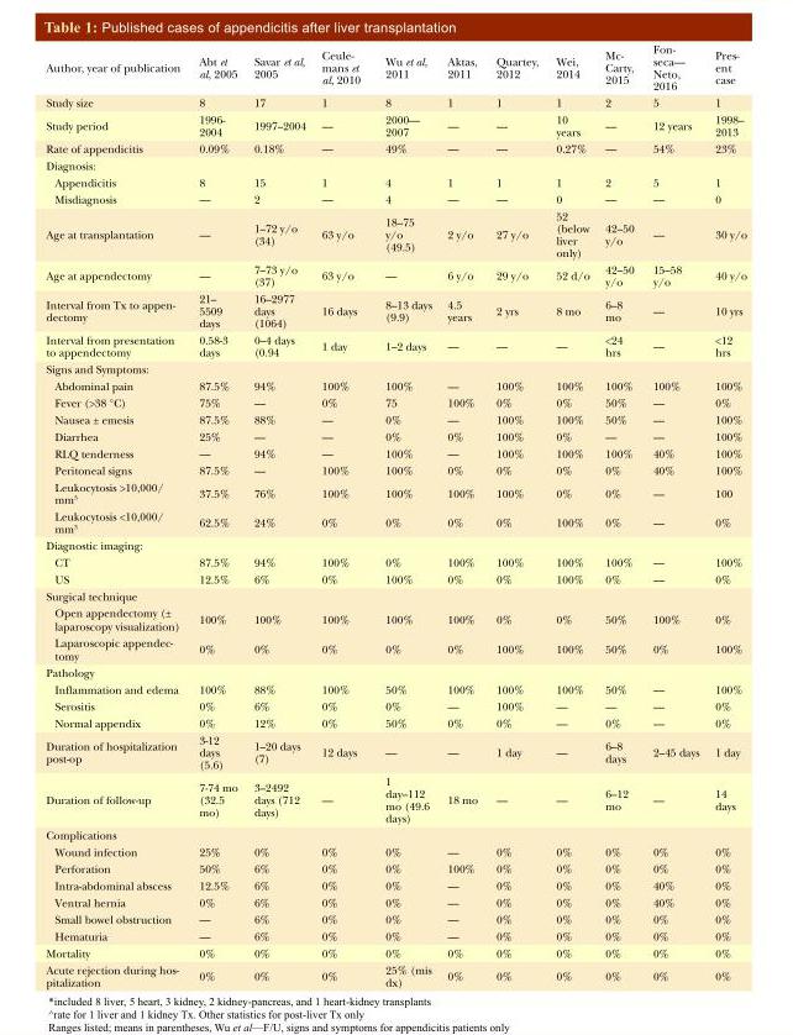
<table><thead><tr><td>Author, year of publication</td><td>Abt et al, 2005</td><td>Savar et al, 2005</td><td>Ceule- mans et al, 2010</td><td>Wu et al, 2011</td><td>Aktas, 2011</td><td>Quartey, 2012</td><td>Wei, 2014</td><td>Mc- Carty, 2015</td><td>Fon- seca— Neto, 2016</td><td>Pres- ent case</td></tr></thead><tbody><tr><td>Study size</td><td>8</td><td>17</td><td>1</td><td>8</td><td>1</td><td>1</td><td>1</td><td>2</td><td>5</td><td>1</td></tr><tr><td>Study period</td><td>1996- 2004</td><td>1997–2004</td><td>—</td><td>2000— 2007</td><td>—</td><td>—</td><td>10 years</td><td>—</td><td>12 years</td><td>1998– 2013</td></tr><tr><td>Rate of appendicitis</td><td>0.09%</td><td>0.18%</td><td>—</td><td>49%</td><td>—</td><td>—</td><td>0.27%</td><td>—</td><td>54%</td><td>23%</td></tr><tr><td colspan="11">Diagnosis:</td></tr><tr><td>Appendicitis</td><td>8</td><td>15</td><td>1</td><td>4</td><td>1</td><td>1</td><td>1</td><td>2</td><td>5</td><td>1</td></tr><tr><td>Misdiagnosis</td><td>—</td><td>2</td><td>—</td><td>4</td><td>—</td><td>—</td><td>0</td><td>—</td><td>—</td><td>0</td></tr><tr><td>Age at transplantation</td><td>—</td><td>1–72 y/o (34)</td><td>63 y/o</td><td>18–75 y/o (49.5)</td><td>2 y/o</td><td>27 y/o</td><td>52 (below liver only)</td><td>42–50 y/o</td><td>—</td><td>30 y/o</td></tr><tr><td>Age at appendectomy</td><td>—</td><td>7–73 y/o (37)</td><td>63 y/o</td><td>—</td><td>6 y/o</td><td>29 y/o</td><td>52 d/o</td><td>42–50 y/o</td><td>15–58 y/o</td><td>40 y/o</td></tr><tr><td>Interval from Tx to appen- dectomy</td><td>21– 5509 days</td><td>16–2977 days (1064)</td><td>16 days</td><td>8–13 days (9.9)</td><td>4.5 years</td><td>2 yrs</td><td>8 mo</td><td>6–8 mo</td><td>—</td><td>10 yrs</td></tr><tr><td>Interval from presentation to appendectomy</td><td>0.58-3 days</td><td>0–4 days (0.94</td><td>1 day</td><td>1–2 days</td><td>—</td><td>—</td><td>—</td><td>&lt;24 hrs</td><td>—</td><td>&lt;12 hrs</td></tr><tr><td colspan="11">Signs and Symptoms:</td></tr><tr><td>Abdominal pain</td><td>87.5%</td><td>94%</td><td>100%</td><td>100%</td><td>—</td><td>100%</td><td>100%</td><td>100%</td><td>100%</td><td>100%</td></tr><tr><td>Fever (&gt;38 °C)</td><td>75%</td><td>—</td><td>0%</td><td>75</td><td>100%</td><td>0%</td><td>0%</td><td>50%</td><td>—</td><td>0%</td></tr><tr><td>Nausea ± emesis</td><td>87.5%</td><td>88%</td><td>—</td><td>0%</td><td>—</td><td>100%</td><td>100%</td><td>50%</td><td>—</td><td>100%</td></tr><tr><td>Diarrhea</td><td>25%</td><td>—</td><td>—</td><td>0%</td><td>0%</td><td>100%</td><td>0%</td><td>—</td><td>—</td><td>100%</td></tr><tr><td>RLQ tenderness</td><td>—</td><td>94%</td><td>—</td><td>100%</td><td>—</td><td>100%</td><td>100%</td><td>100%</td><td>40%</td><td>100%</td></tr><tr><td>Peritoneal signs</td><td>87.5%</td><td>—</td><td>100%</td><td>100%</td><td>0%</td><td>0%</td><td>0%</td><td>0%</td><td>40%</td><td>100%</td></tr><tr><td>Leukocytosis &gt;10,000/ mm<sup>3</sup></td><td>37.5%</td><td>76%</td><td>100%</td><td>100%</td><td>100%</td><td>100%</td><td>0%</td><td>0%</td><td>—</td><td>100</td></tr><tr><td>Leukocytosis &lt;10,000/ mm<sup>3</sup></td><td>62.5%</td><td>24%</td><td>0%</td><td>0%</td><td>0%</td><td>0%</td><td>100%</td><td>0%</td><td>—</td><td>0%</td></tr><tr><td colspan="11">Diagnostic imaging:</td></tr><tr><td>CT</td><td>87.5%</td><td>94%</td><td>100%</td><td>0%</td><td>100%</td><td>100%</td><td>100%</td><td>100%</td><td>—</td><td>100%</td></tr><tr><td>US</td><td>12.5%</td><td>6%</td><td>0%</td><td>100%</td><td>0%</td><td>0%</td><td>100%</td><td>0%</td><td>—</td><td>0%</td></tr><tr><td colspan="11">Surgical technique</td></tr><tr><td>Open appendectomy (± laparoscopy visualization)</td><td>100%</td><td>100%</td><td>100%</td><td>100%</td><td>100%</td><td>0%</td><td>0%</td><td>50%</td><td>100%</td><td>0%</td></tr><tr><td>Laparoscopic appendec- tomy</td><td>0%</td><td>0%</td><td>0%</td><td>0%</td><td>0%</td><td>100%</td><td>100%</td><td>50%</td><td>0%</td><td>100%</td></tr><tr><td colspan="11">Pathology</td></tr><tr><td>Inflammation and edema</td><td>100%</td><td>88%</td><td>100%</td><td>50%</td><td>100%</td><td>100%</td><td>100%</td><td>50%</td><td>—</td><td>100%</td></tr><tr><td>Serositis</td><td>0%</td><td>6%</td><td>0%</td><td>0%</td><td>—</td><td>100%</td><td>—</td><td>—</td><td>—</td><td>0%</td></tr><tr><td>Normal appendix</td><td>0%</td><td>12%</td><td>0%</td><td>50%</td><td>0%</td><td>0%</td><td>—</td><td>0%</td><td>—</td><td>0%</td></tr><tr><td>Duration of hospitalization post-op</td><td>3-12 days (5.6)</td><td>1–20 days (7)</td><td>12 days</td><td>—</td><td>—</td><td>1 day</td><td>—</td><td>6–8 days</td><td>2–45 days</td><td>1 day</td></tr><tr><td>Duration of follow-up</td><td>7-74 mo (32.5 mo)</td><td>3–2492 days (712 days)</td><td>—</td><td>1 day–112 mo (49.6 days)</td><td>18 mo</td><td>—</td><td>—</td><td>6–12 mo</td><td>—</td><td>14 days</td></tr><tr><td colspan="11">Complications</td></tr><tr><td>Wound infection</td><td>25%</td><td>0%</td><td>0%</td><td>0%</td><td>—</td><td>0%</td><td>0%</td><td>0%</td><td>0%</td><td>0%</td></tr><tr><td>Perforation</td><td>50%</td><td>6%</td><td>0%</td><td>0%</td><td>100%</td><td>0%</td><td>0%</td><td>0%</td><td>0%</td><td>0%</td></tr><tr><td>Intra-abdominal abscess</td><td>12.5%</td><td>6%</td><td>0%</td><td>0%</td><td>—</td><td>0%</td><td>0%</td><td>0%</td><td>40%</td><td>0%</td></tr><tr><td>Ventral hernia</td><td>0%</td><td>6%</td><td>0%</td><td>0%</td><td>—</td><td>0%</td><td>0%</td><td>0%</td><td>40%</td><td>0%</td></tr><tr><td>Small bowel obstruction</td><td>—</td><td>6%</td><td>0%</td><td>0%</td><td>—</td><td>0%</td><td>0%</td><td>0%</td><td>0%</td><td>0%</td></tr><tr><td>Hematuria</td><td>—</td><td>6%</td><td>0%</td><td>0%</td><td>—</td><td>0%</td><td>0%</td><td>0%</td><td>0%</td><td>0%</td></tr><tr><td>Mortality</td><td>0%</td><td>0%</td><td>0%</td><td>0%</td><td>0%</td><td>0%</td><td>0%</td><td>0%</td><td>0%</td><td>0%</td></tr><tr><td>Acute rejection during hos- pitalization</td><td>0%</td><td>0%</td><td>0%</td><td>25% (mis dx)</td><td>0%</td><td>0%</td><td>0%</td><td>0%</td><td>0%</td><td>0%</td></tr></tbody></table>